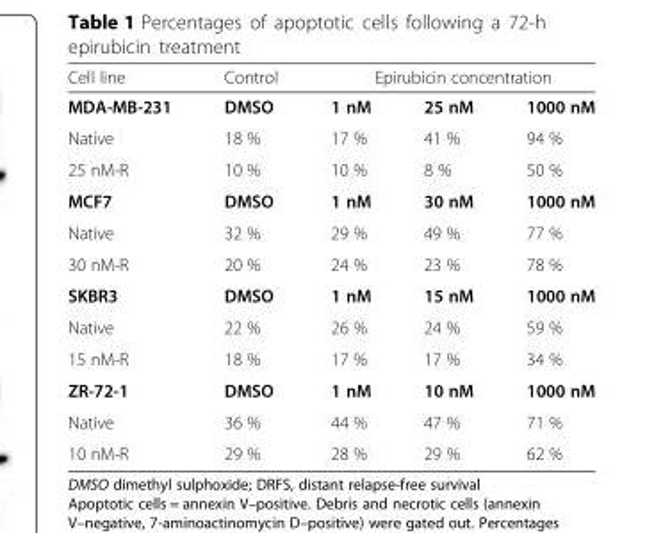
<table><thead><tr><td rowspan="2">Cell line MDA-MB-231</td><td rowspan="2">Control DMSO</td><td colspan="3">Epirubicin concentration</td></tr><tr><td>1 nM</td><td>25 nM</td><td>1000 nM</td></tr></thead><tbody><tr><td>Native</td><td>18 %</td><td>17 %</td><td>41 %</td><td>94 %</td></tr><tr><td>25 nM-R</td><td>10 %</td><td>10 %</td><td>8 %</td><td>50 %</td></tr><tr><td>MCF7</td><td>DMSO</td><td>1 nM</td><td>30 nM</td><td>1000 nM</td></tr><tr><td>Native</td><td>32 %</td><td>29 %</td><td>49 %</td><td>77 %</td></tr><tr><td>30 nM-R</td><td>20 %</td><td>24 %</td><td>23 %</td><td>78 %</td></tr><tr><td>SKBR3</td><td>DMSO</td><td>1 nM</td><td>15 nM</td><td>1000 nM</td></tr><tr><td>Native</td><td>22 %</td><td>26 %</td><td>24 %</td><td>59 %</td></tr><tr><td>15 nM-R</td><td>18 %</td><td>17 %</td><td>17 %</td><td>34 %</td></tr><tr><td>ZR-72-1</td><td>DMSO</td><td>1 nM</td><td>10 nM</td><td>1000 nM</td></tr><tr><td>Native</td><td>36 %</td><td>44 %</td><td>47 %</td><td>71 %</td></tr><tr><td>10 nM-R</td><td>29 %</td><td>28 %</td><td>29 %</td><td>62 %</td></tr></tbody></table>